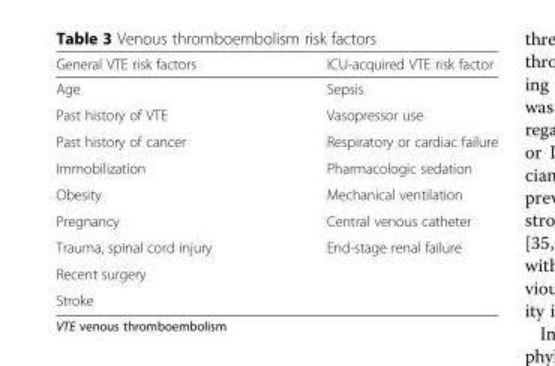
<table><thead><tr><td>General VTE risk factors</td><td>ICU-acquired VTE risk factor</td></tr></thead><tbody><tr><td>Age</td><td>Sepsis</td></tr><tr><td>Past history of VTE</td><td>Vasopressor use</td></tr><tr><td>Past history of cancer</td><td>Respiratory or cardiac failure</td></tr><tr><td>Immobilization</td><td>Pharmacologic sedation</td></tr><tr><td>Obesity</td><td>Mechanical ventilation</td></tr><tr><td>Pregnancy</td><td>Central venous catheter</td></tr><tr><td>Trauma, spinal cord injury</td><td>End-stage renal failure</td></tr><tr><td colspan="2">Recent surgery</td></tr><tr><td>Stroke</td><td></td></tr></tbody></table>